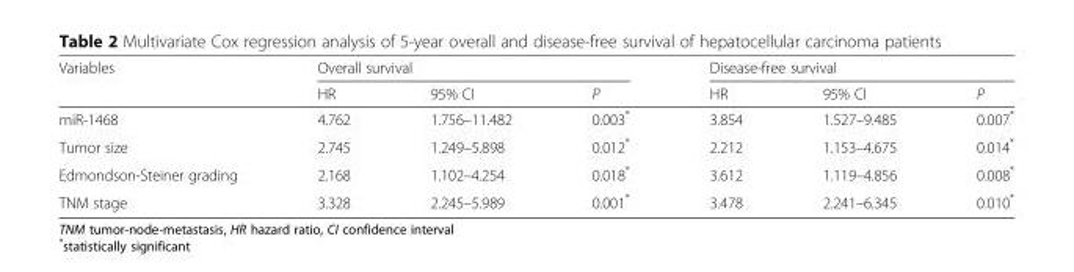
<table><thead><tr><td rowspan="2">Variables</td><td colspan="3">Overall survival</td><td colspan="3">Disease-free survival</td></tr><tr><td>HR</td><td>95% CI</td><td>P</td><td>HR</td><td>95% CI</td><td>P</td></tr></thead><tbody><tr><td>miR-1468</td><td>4.762</td><td>1.756–11.482</td><td>0.003*</td><td>3.854</td><td>1.527–9.485</td><td>0.007*</td></tr><tr><td>Tumor size</td><td>2.745</td><td>1.249–5.898</td><td>0.012*</td><td>2.212</td><td>1.153–4.675</td><td>0.014*</td></tr><tr><td>Edmondson-Steiner grading</td><td>2.168</td><td>1.102–4.254</td><td>0.018*</td><td>3.612</td><td>1.119–4.856</td><td>0.008*</td></tr><tr><td>TNM stage</td><td>3.328</td><td>2.245–5.989</td><td>0.001*</td><td>3.478</td><td>2.241–6.345</td><td>0.010*</td></tr></tbody></table>